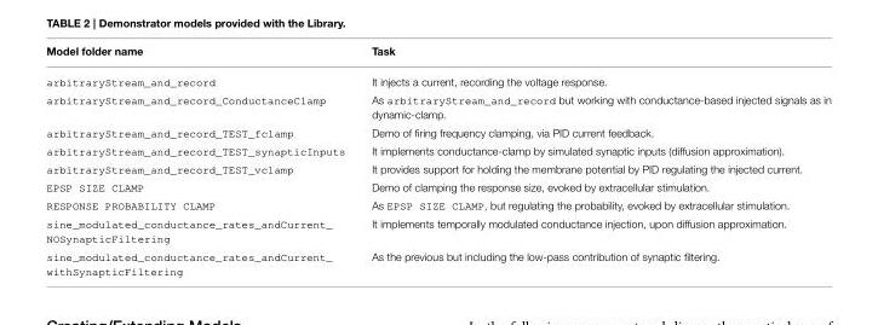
<table><thead><tr><td>Model folder name</td><td>Task</td></tr></thead><tbody><tr><td>arbitraryStream_and_record</td><td>It injects a current, recording the voltage response.</td></tr><tr><td>arbitraryStream_and_record_ConductanceClamp</td><td>As arbitraryStream_and_record but working with conductance-based injected signals as in dynamic-clamp.</td></tr><tr><td>arbitraryStream_and_record_TEST_fclamp</td><td>Demo of firing frequency clamping, via PID current feedback.</td></tr><tr><td>arbitraryStream_and_record_TEST_synapticInputs</td><td>It implements conductance-clamp by simulated synaptic inputs (diffusion approximation).</td></tr><tr><td>arbitraryStream_and_record_TEST_vclamp</td><td>It provides support for holding the membrane potential by PID regulating the injected current.</td></tr><tr><td>EPSP SIZE CLAMP</td><td>Demo of clamping the response size, evoked by extracellular stimulation.</td></tr><tr><td>RESPONSE PROBABILITY CLAMP</td><td>As EPSP SIZE CLAMP, but regulating the probability, evoked by extracellular stimulation.</td></tr><tr><td>sine_modulated_conductance_rates_andCurrent_ NOSynapticFiltering</td><td>It implements temporally modulated conductance injection, upon diffusion approximation.</td></tr><tr><td>sine_modulated_conductance_rates_andCurrent_ withSynapticFiltering</td><td>As the previous but including the low-pass contribution of synaptic filtering.</td></tr></tbody></table>